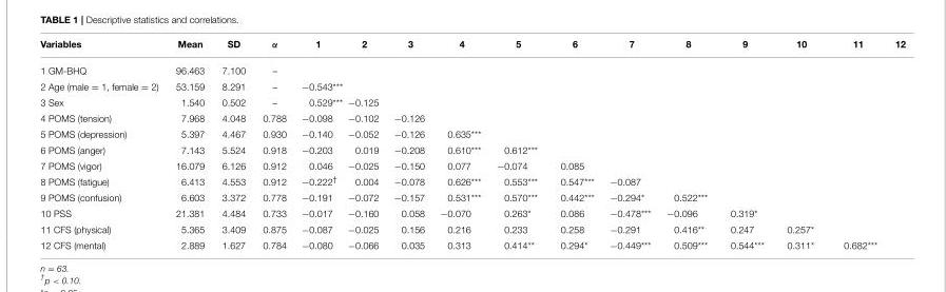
<table><thead><tr><td>Variables</td><td>Mean</td><td>SD</td><td>α</td><td>1</td><td>2</td><td>3</td><td>4</td><td>5</td><td>6</td><td>7</td><td>8</td><td>9</td><td>10</td><td>11</td><td>12</td></tr></thead><tbody><tr><td>1 GM-BHQ</td><td>96.463</td><td>7.100</td><td>–</td><td></td><td></td><td></td><td></td><td></td><td></td><td></td><td></td><td></td><td></td><td></td><td></td></tr><tr><td>2 Age (male = 1, female = 2)</td><td>53.159</td><td>8.291</td><td>–</td><td>−0.543***</td><td></td><td></td><td></td><td></td><td></td><td></td><td></td><td></td><td></td><td></td><td></td></tr><tr><td>3 Sex</td><td>1.540</td><td>0.502</td><td>–</td><td>0.529***</td><td>−0.125</td><td></td><td></td><td></td><td></td><td></td><td></td><td></td><td></td><td></td><td></td></tr><tr><td>4 POMS (tension)</td><td>7.968</td><td>4.048</td><td>0.788</td><td>−0.098</td><td>−0.102</td><td>−0.126</td><td></td><td></td><td></td><td></td><td></td><td></td><td></td><td></td><td></td></tr><tr><td>5 POMS (depression)</td><td>5.397</td><td>4.467</td><td>0.930</td><td>−0.140</td><td>−0.052</td><td>−0.126</td><td>0.635***</td><td></td><td></td><td></td><td></td><td></td><td></td><td></td><td></td></tr><tr><td>6 POMS (anger)</td><td>7.143</td><td>5.524</td><td>0.918</td><td>−0.203</td><td>0.019</td><td>−0.208</td><td>0.610***</td><td>0.612***</td><td></td><td></td><td></td><td></td><td></td><td></td><td></td></tr><tr><td>7 POMS (vigor)</td><td>16.079</td><td>6.126</td><td>0.912</td><td>0.046</td><td>−0.025</td><td>−0.150</td><td>0.077</td><td>−0.074</td><td>0.085</td><td></td><td></td><td></td><td></td><td></td><td></td></tr><tr><td>8 POMS (fatigue)</td><td>6.413</td><td>4.553</td><td>0.912</td><td>−0.222<sup>†</sup></td><td>0.004</td><td>−0.078</td><td>0.626***</td><td>0.553***</td><td>0.547***</td><td>−0.087</td><td></td><td></td><td></td><td></td><td></td></tr><tr><td>9 POMS (confusion)</td><td>6.603</td><td>3.372</td><td>0.778</td><td>−0.191</td><td>−0.072</td><td>−0.157</td><td>0.531***</td><td>0.570***</td><td>0.442***</td><td>−0.294*</td><td>0.522***</td><td></td><td></td><td></td><td></td></tr><tr><td>10 PSS</td><td>21.381</td><td>4.484</td><td>0.733</td><td>−0.017</td><td>−0.160</td><td>0.058</td><td>−0.070</td><td>0.263*</td><td>0.086</td><td>−0.478***</td><td>−0.096</td><td>0.319*</td><td></td><td></td><td></td></tr><tr><td>11 CFS (physical)</td><td>5.365</td><td>3.409</td><td>0.875</td><td>−0.087</td><td>−0.025</td><td>0.156</td><td>0.216</td><td>0.233</td><td>0.258</td><td>−0.291</td><td>0.416**</td><td>0.247</td><td>0.257*</td><td></td><td></td></tr><tr><td>12 CFS (mental)</td><td>2.889</td><td>1.627</td><td>0.784</td><td>−0.080</td><td>−0.066</td><td>0.035</td><td>0.313</td><td>0.414**</td><td>0.294*</td><td>−0.449***</td><td>0.509***</td><td>0.544***</td><td>0.311*</td><td>0.682***</td><td></td></tr></tbody></table>